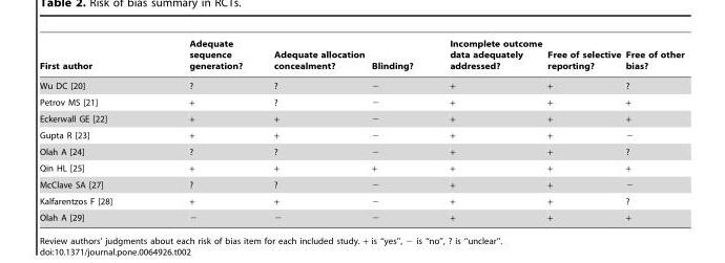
<table><thead><tr><td>First author</td><td>Adequate sequence generation?</td><td>Adequate allocation concealment?</td><td>Blinding?</td><td>Incomplete outcome data adequately addressed?</td><td>Free of selective reporting?</td><td>Free of other bias?</td></tr></thead><tbody><tr><td>Wu DC [20]</td><td>?</td><td>?</td><td>−</td><td>+</td><td>+</td><td>?</td></tr><tr><td>Petrov MS [21]</td><td>+</td><td>?</td><td>−</td><td>+</td><td>+</td><td>+</td></tr><tr><td>Eckerwall GE [22]</td><td>+</td><td>+</td><td>−</td><td>+</td><td>+</td><td>+</td></tr><tr><td>Gupta R [23]</td><td>+</td><td>+</td><td>−</td><td>+</td><td>+</td><td>−</td></tr><tr><td>Olah A [24]</td><td>?</td><td>?</td><td>−</td><td>+</td><td>+</td><td>?</td></tr><tr><td>Qin HL [25]</td><td>+</td><td>+</td><td>+</td><td>+</td><td>+</td><td>+</td></tr><tr><td>McClave SA [27]</td><td>?</td><td>?</td><td>−</td><td>+</td><td>+</td><td>−</td></tr><tr><td>Kalfarentzos F [28]</td><td>+</td><td>+</td><td>−</td><td>+</td><td>+</td><td>?</td></tr><tr><td>Olah A [29]</td><td>−</td><td>−</td><td>−</td><td>+</td><td>+</td><td>+</td></tr></tbody></table>